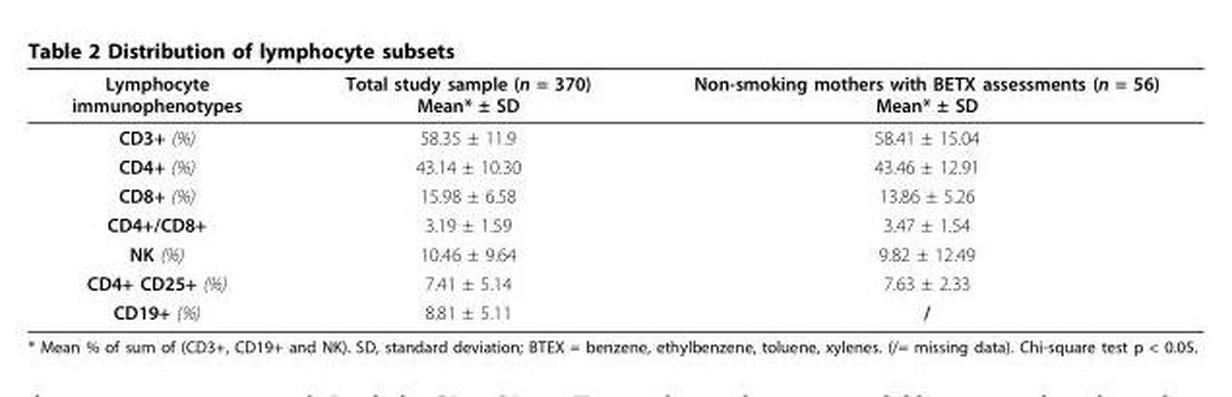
<table><thead><tr><td>Lymphocyte immunophenotypes</td><td>Total study sample (n = 370) Mean* ± SD</td><td>Non-smoking mothers with BETX assessments (n = 56) Mean* ± SD</td></tr></thead><tbody><tr><td>CD3+ (%)</td><td>58.35 ± 11.9</td><td>58.41 ± 15.04</td></tr><tr><td>CD4+ (%)</td><td>43.14 ± 10.30</td><td>43.46 ± 12.91</td></tr><tr><td>CD8+ (%)</td><td>15.98 ± 6.58</td><td>13.86 ± 5.26</td></tr><tr><td>CD4+/CD8+</td><td>3.19 ± 1.59</td><td>3.47 ± 1.54</td></tr><tr><td>NK (%)</td><td>10.46 ± 9.64</td><td>9.82 ± 12.49</td></tr><tr><td>CD4+ CD25+ (%)</td><td>7.41 ± 5.14</td><td>7.63 ± 2.33</td></tr><tr><td>CD19+ (%)</td><td>8.81 ± 5.11</td><td>/</td></tr></tbody></table>